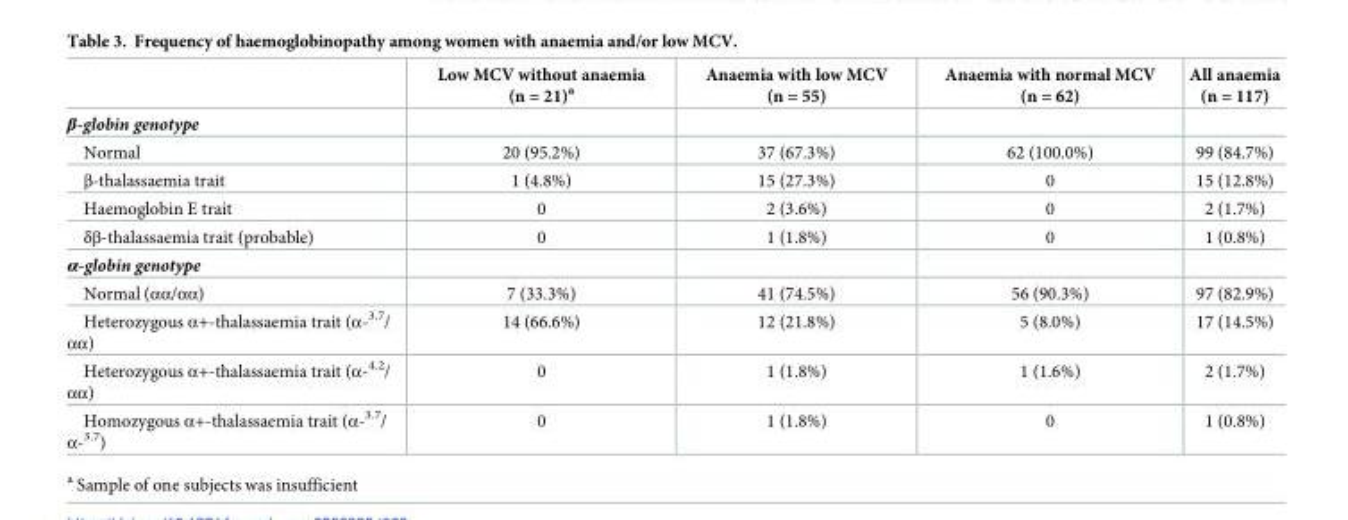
<table><thead><tr><td></td><td>Low MCV without anaemia (n = 21)<sup>a</sup></td><td>Anaemia with low MCV (n = 55)</td><td>Anaemia with normal MCV (n = 62)</td><td>All anaemia (n = 117)</td></tr></thead><tbody><tr><td colspan="5">β-globin genotype</td></tr><tr><td>Normal</td><td>20 (95.2%)</td><td>37 (67.3%)</td><td>62 (100.0%)</td><td>99 (84.7%)</td></tr><tr><td>β-thalassaemia trait</td><td>1 (4.8%)</td><td>15 (27.3%)</td><td>0</td><td>15 (12.8%)</td></tr><tr><td>Haemoglobin E trait</td><td>0</td><td>2 (3.6%)</td><td>0</td><td>2 (1.7%)</td></tr><tr><td>δβ-thalassaemia trait (probable)</td><td>0</td><td>1 (1.8%)</td><td>0</td><td>1 (0.8%)</td></tr><tr><td colspan="5">α-globin genotype</td></tr><tr><td>Normal (αα/αα)</td><td>7 (33.3%)</td><td>41 (74.5%)</td><td>56 (90.3%)</td><td>97 (82.9%)</td></tr><tr><td>Heterozygous α+-thalassaemia trait (α-<sup>3.7</sup>/ αα)</td><td>14 (66.6%)</td><td>12 (21.8%)</td><td>5 (8.0%)</td><td>17 (14.5%)</td></tr><tr><td>Heterozygous α+-thalassaemia trait (α-<sup>4.2</sup>/ αα)</td><td>0</td><td>1 (1.8%)</td><td>1 (1.6%)</td><td>2 (1.7%)</td></tr><tr><td>Homozygous α+-thalassaemia trait (α-<sup>3.7</sup>/ α-<sup>3.7</sup>)</td><td>0</td><td>1 (1.8%)</td><td>0</td><td>1 (0.8%)</td></tr></tbody></table>